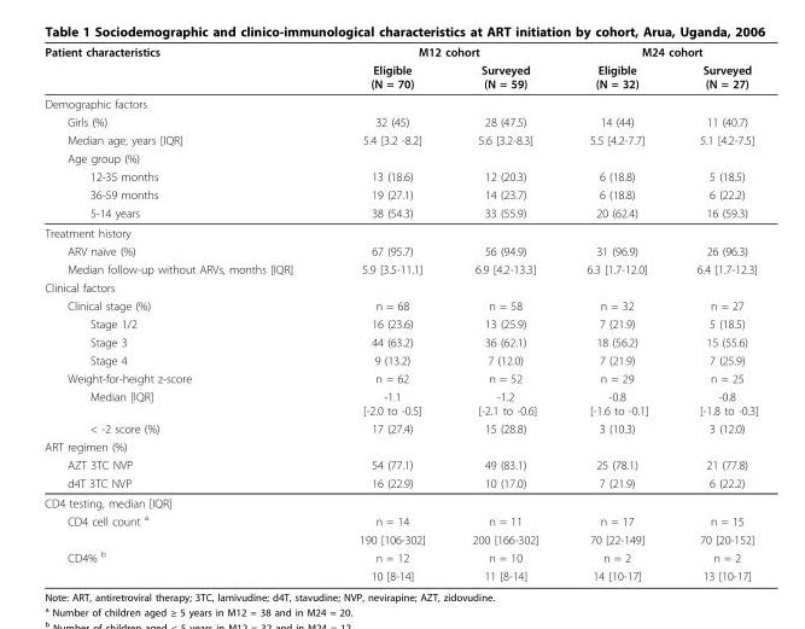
<table><thead><tr><td rowspan="2">Patient characteristics</td><td colspan="2">M12 cohort</td><td colspan="2">M24 cohort</td></tr><tr><td>Eligible (N = 70)</td><td>Surveyed (N = 59)</td><td>Eligible (N = 32)</td><td>Surveyed (N = 27)</td></tr></thead><tbody><tr><td colspan="5">Demographic factors</td></tr><tr><td>Girls (%)</td><td>32 (45)</td><td>28 (47.5)</td><td>14 (44)</td><td>11 (40.7)</td></tr><tr><td>Median age, years [IQR]</td><td>5.4 [3.2 -8.2]</td><td>5.6 [3.2-8.3]</td><td>5.5 [4.2-7.7]</td><td>5.1 [4.2-7.5]</td></tr><tr><td colspan="5">Age group (%)</td></tr><tr><td>12-35 months</td><td>13 (18.6)</td><td>12 (20.3)</td><td>6 (18.8)</td><td>5 (18.5)</td></tr><tr><td>36-59 months</td><td>19 (27.1)</td><td>14 (23.7)</td><td>6 (18.8)</td><td>6 (22.2)</td></tr><tr><td>5-14 years</td><td>38 (54.3)</td><td>33 (55.9)</td><td>20 (62.4)</td><td>16 (59.3)</td></tr><tr><td colspan="5">Treatment history</td></tr><tr><td>ARV naïve (%)</td><td>67 (95.7)</td><td>56 (94.9)</td><td>31 (96.9)</td><td>26 (96.3)</td></tr><tr><td>Median follow-up without ARVs, months [IQR]</td><td>5.9 [3.5-11.1]</td><td>6.9 [4.2-13.3]</td><td>6.3 [1.7-12.0]</td><td>6.4 [1.7-12.3]</td></tr><tr><td colspan="5">Clinical factors</td></tr><tr><td>Clinical stage (%)</td><td>n = 68</td><td>n = 58</td><td>n = 32</td><td>n = 27</td></tr><tr><td>Stage 1/2</td><td>16 (23.6)</td><td>13 (25.9)</td><td>7 (21.9)</td><td>5 (18.5)</td></tr><tr><td>Stage 3</td><td>44 (63.2)</td><td>36 (62.1)</td><td>18 (56.2)</td><td>15 (55.6)</td></tr><tr><td>Stage 4</td><td>9 (13.2)</td><td>7 (12.0)</td><td>7 (21.9)</td><td>7 (25.9)</td></tr><tr><td>Weight-for-height z-score</td><td>n = 62</td><td>n = 52</td><td>n = 29</td><td>n = 25</td></tr><tr><td>Median [IQR]</td><td>-1.1 [-2.0 to -0.5]</td><td>-1.2 [-2.1 to -0.6]</td><td>-0.8 [-1.6 to -0.1]</td><td>-0.8 [-1.8 to -0.3]</td></tr><tr><td>&lt; -2 score (%)</td><td>17 (27.4)</td><td>15 (28.8)</td><td>3 (10.3)</td><td>3 (12.0)</td></tr><tr><td colspan="5">ART regimen (%)</td></tr><tr><td>AZT 3TC NVP</td><td>54 (77.1)</td><td>49 (83.1)</td><td>25 (78.1)</td><td>21 (77.8)</td></tr><tr><td>d4T 3TC NVP</td><td>16 (22.9)</td><td>10 (17.0)</td><td>7 (21.9)</td><td>6 (22.2)</td></tr><tr><td colspan="5">CD4 testing, median [IQR]</td></tr><tr><td rowspan="2">CD4 cell count <sup>a</sup></td><td>n = 14</td><td>n = 11</td><td>n = 17</td><td>n = 15</td></tr><tr><td>190 [106-302]</td><td>200 [166-302]</td><td>70 [22-149]</td><td>70 [20-152]</td></tr><tr><td rowspan="2">CD4% <sup>b</sup></td><td>n = 12</td><td>n = 10</td><td>n = 2</td><td>n = 2</td></tr><tr><td>10 [8-14]</td><td>11 [8-14]</td><td>14 [10-17]</td><td>13 [10-17]</td></tr></tbody></table>